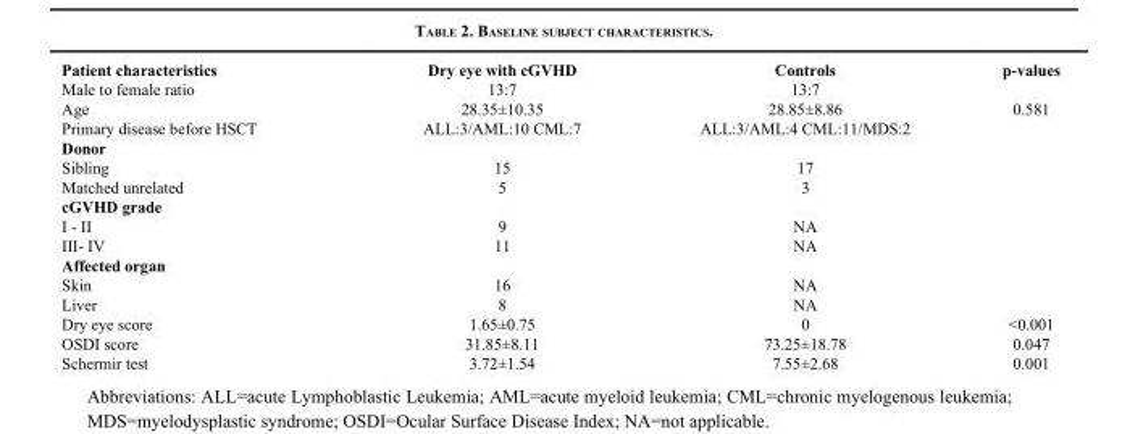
<table><thead><tr><td>Patient characteristics</td><td>Dry eye with cGVHD</td><td>Controls</td><td>p-values</td></tr></thead><tbody><tr><td>Male to female ratio</td><td>13:7</td><td>13:7</td><td></td></tr><tr><td>Age</td><td>28.35±10.35</td><td>28.85±8.86</td><td>0.581</td></tr><tr><td>Primary disease before HSCT</td><td>ALL:3/AML:10 CML:7</td><td>ALL:3/AML:4 CML:11/MDS:2</td><td></td></tr><tr><td colspan="4">Donor</td></tr><tr><td>Sibling</td><td>15</td><td>17</td><td></td></tr><tr><td>Matched unrelated</td><td>5</td><td>3</td><td></td></tr><tr><td colspan="4">cGVHD grade</td></tr><tr><td>I - II</td><td>9</td><td>NA</td><td></td></tr><tr><td>III- IV</td><td>11</td><td>NA</td><td></td></tr><tr><td colspan="4">Affected organ</td></tr><tr><td>Skin</td><td>16</td><td>NA</td><td></td></tr><tr><td>Liver</td><td>8</td><td>NA</td><td></td></tr><tr><td>Dry eye score</td><td>1.65±0.75</td><td>0</td><td>&lt;0.001</td></tr><tr><td>OSDI score</td><td>31.85±8.11</td><td>73.25±18.78</td><td>0.047</td></tr><tr><td>Schermir test</td><td>3.72±1.54</td><td>7.55±2.68</td><td>0.001</td></tr></tbody></table>